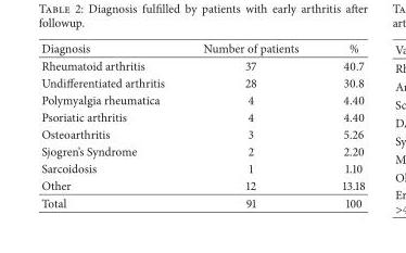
<table><thead><tr><td>Diagnosis</td><td>Number of patients</td><td>%</td></tr></thead><tbody><tr><td>Rheumatoid arthritis</td><td>37</td><td>40.7</td></tr><tr><td>Undifferentiated arthritis</td><td>28</td><td>30.8</td></tr><tr><td>Polymyalgia rheumatica</td><td>4</td><td>4.40</td></tr><tr><td>Psoriatic arthritis</td><td>4</td><td>4.40</td></tr><tr><td>Osteoarthritis</td><td>3</td><td>5.26</td></tr><tr><td>Sjogren’s Syndrome</td><td>2</td><td>2.20</td></tr><tr><td>Sarcoidosis</td><td>1</td><td>1.10</td></tr><tr><td>Other</td><td>12</td><td>13.18</td></tr><tr><td>Total</td><td>91</td><td>100</td></tr></tbody></table>